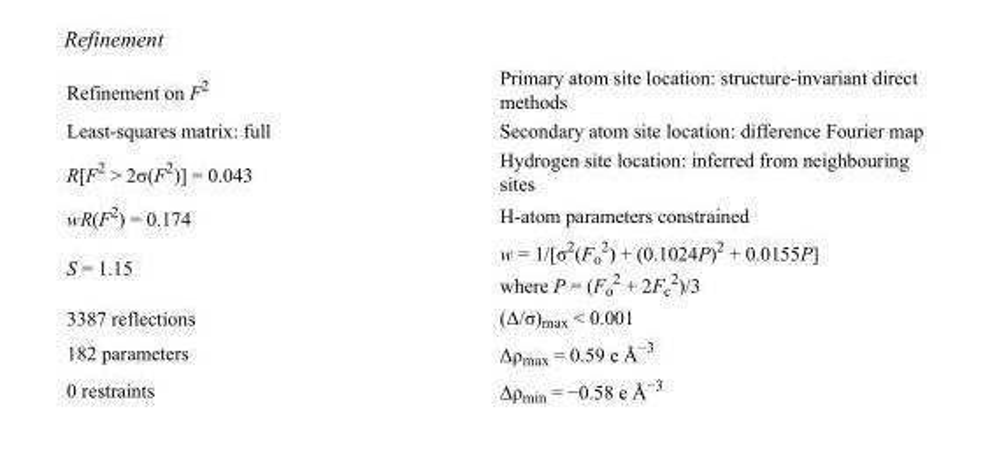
<table><tbody><tr><td>Refinement on F<sup>2</sup></td><td>Primary atom site location: structure-invariant direct methods</td></tr><tr><td>Least-squares matrix: full</td><td>Secondary atom site location: difference Fourier map</td></tr><tr><td>R[F<sup>2</sup> &gt; 2σ(F<sup>2</sup>)] = 0.043</td><td>Hydrogen site location: inferred from neighbouring sites</td></tr><tr><td>wR(F<sup>2</sup>) = 0.174</td><td>H-atom parameters constrained</td></tr><tr><td>S = 1.15</td><td>w = 1/[σ<sup>2</sup>(F<sub>o</sub> <sup>2</sup>) + (0.1024P)<sup>2</sup> + 0.0155P] where P = (F<sub>o</sub> <sup>2</sup> + 2F<sub>c</sub> <sup>2</sup>)/3</td></tr><tr><td>3387 reflections</td><td>(Δ/σ)<sub>max</sub> &lt; 0.001</td></tr><tr><td>182 parameters</td><td>Δρ<sub>max</sub> = 0.59 e Å<sup>−3</sup></td></tr><tr><td>0 restraints</td><td>Δρ<sub>min</sub> = −0.58 e Å<sup>−3</sup></td></tr></tbody></table>